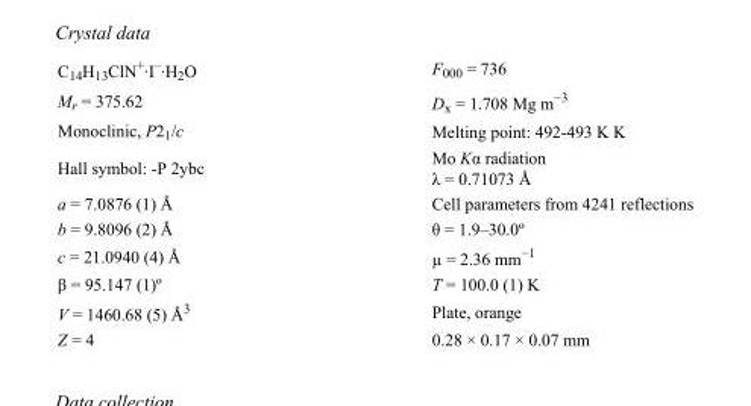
<table><tbody><tr><td>C<sub>14</sub>H<sub>13</sub>ClN<sup>+</sup>·I<sup>–</sup>·H<sub>2</sub>O</td><td>F000 = 736</td></tr><tr><td>M<sub>r</sub> = 375.62</td><td>D<sub>x</sub> = 1.708 Mg m<sup>−3</sup></td></tr><tr><td>Monoclinic, P2<sub>1</sub>/c</td><td>Melting point: 492-493 K K</td></tr><tr><td>Hall symbol: -P 2ybc</td><td>Mo Kα radiation λ = 0.71073 Å</td></tr><tr><td>a = 7.0876 (1) Å</td><td>Cell parameters from 4241 reflections</td></tr><tr><td>b = 9.8096 (2) Å</td><td>θ = 1.9–30.0º</td></tr><tr><td>c = 21.0940 (4) Å</td><td>µ = 2.36 mm<sup>−1</sup></td></tr><tr><td>β = 95.147 (1)º</td><td>T = 100.0 (1) K</td></tr><tr><td>V = 1460.68 (5) Å<sup>3</sup></td><td>Plate, orange</td></tr><tr><td>Z = 4</td><td>0.28 × 0.17 × 0.07 mm</td></tr></tbody></table>